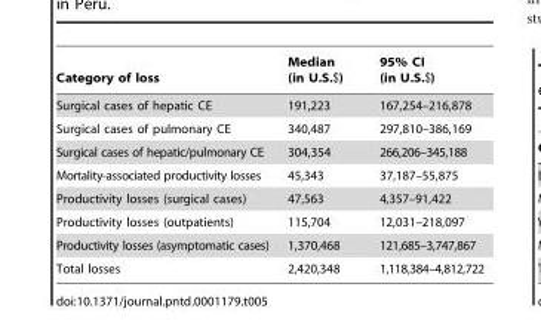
<table><thead><tr><td>Category of loss</td><td>Median (in U.S.$)</td><td>95% CI (in U.S.$)</td></tr></thead><tbody><tr><td>Surgical cases of hepatic CE</td><td>191,223</td><td>167,254–216,878</td></tr><tr><td>Surgical cases of pulmonary CE</td><td>340,487</td><td>297,810–386,169</td></tr><tr><td>Surgical cases of hepatic/pulmonary CE</td><td>304,354</td><td>266,206–345,188</td></tr><tr><td>Mortality-associated productivity losses</td><td>45,343</td><td>37,187–55,875</td></tr><tr><td>Productivity losses (surgical cases)</td><td>47,563</td><td>4,357–91,422</td></tr><tr><td>Productivity losses (outpatients)</td><td>115,704</td><td>12,031–218,097</td></tr><tr><td>Productivity losses (asymptomatic cases)</td><td>1,370,468</td><td>121,685–3,747,867</td></tr><tr><td>Total losses</td><td>2,420,348</td><td>1,118,384–4,812,722</td></tr></tbody></table>